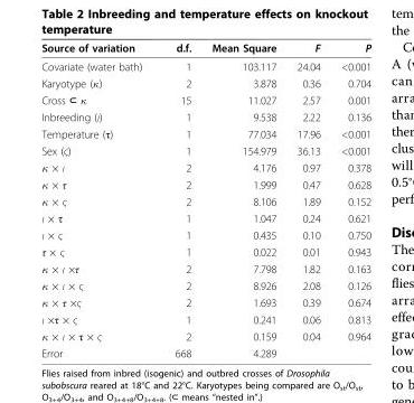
<table><thead><tr><td>Source of variation</td><td>d.f.</td><td>Mean Square</td><td>F</td><td>P</td></tr></thead><tbody><tr><td>Covariate (water bath)</td><td>1</td><td>103.117</td><td>24.04</td><td>&lt;0.001</td></tr><tr><td>Karyotype (κ)</td><td>2</td><td>3.878</td><td>0.36</td><td>0.704</td></tr><tr><td>Cross ⊂ κ</td><td>15</td><td>11.027</td><td>2.57</td><td>0.001</td></tr><tr><td>Inbreeding (ι)</td><td>1</td><td>9.538</td><td>2.22</td><td>0.136</td></tr><tr><td>Temperature (τ)</td><td>1</td><td>77.034</td><td>17.96</td><td>&lt;0.001</td></tr><tr><td>Sex (ς)</td><td>1</td><td>154.979</td><td>36.13</td><td>&lt;0.001</td></tr><tr><td>κ × ι</td><td>2</td><td>4.176</td><td>0.97</td><td>0.378</td></tr><tr><td>κ × τ</td><td>2</td><td>1.999</td><td>0.47</td><td>0.628</td></tr><tr><td>κ × ς</td><td>2</td><td>8.106</td><td>1.89</td><td>0.152</td></tr><tr><td>ι × τ</td><td>1</td><td>1.047</td><td>0.24</td><td>0.621</td></tr><tr><td>ι × ς</td><td>1</td><td>0.435</td><td>0.10</td><td>0.750</td></tr><tr><td>τ × ς</td><td>1</td><td>0.022</td><td>0.01</td><td>0.943</td></tr><tr><td>κ × ι ×τ</td><td>2</td><td>7.798</td><td>1.82</td><td>0.163</td></tr><tr><td>κ × ι × ς</td><td>2</td><td>8.926</td><td>2.08</td><td>0.126</td></tr><tr><td>κ × τ ×ς</td><td>2</td><td>1.693</td><td>0.39</td><td>0.674</td></tr><tr><td>ι ×τ × ς</td><td>1</td><td>0.241</td><td>0.06</td><td>0.813</td></tr><tr><td>κ × ι × τ × ς</td><td>2</td><td>0.159</td><td>0.04</td><td>0.964</td></tr><tr><td>Error</td><td>668</td><td>4.289</td><td></td><td></td></tr></tbody></table>